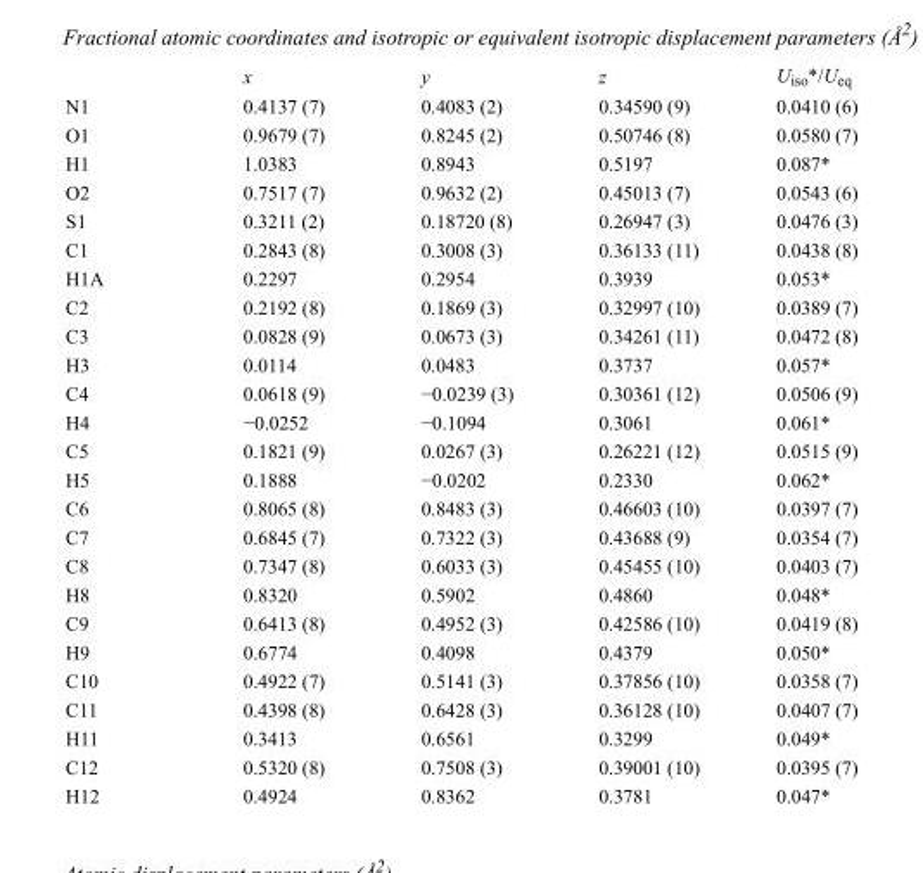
<table><thead><tr><td></td><td>x</td><td>y</td><td>z</td><td>U<sub>iso</sub>*/U<sub>eq</sub></td></tr></thead><tbody><tr><td>N1</td><td>0.4137 (7)</td><td>0.4083 (2)</td><td>0.34590 (9)</td><td>0.0410 (6)</td></tr><tr><td>O1</td><td>0.9679 (7)</td><td>0.8245 (2)</td><td>0.50746 (8)</td><td>0.0580 (7)</td></tr><tr><td>H1</td><td>1.0383</td><td>0.8943</td><td>0.5197</td><td>0.087*</td></tr><tr><td>O2</td><td>0.7517 (7)</td><td>0.9632 (2)</td><td>0.45013 (7)</td><td>0.0543 (6)</td></tr><tr><td>S1</td><td>0.3211 (2)</td><td>0.18720 (8)</td><td>0.26947 (3)</td><td>0.0476 (3)</td></tr><tr><td>C1</td><td>0.2843 (8)</td><td>0.3008 (3)</td><td>0.36133 (11)</td><td>0.0438 (8)</td></tr><tr><td>H1A</td><td>0.2297</td><td>0.2954</td><td>0.3939</td><td>0.053*</td></tr><tr><td>C2</td><td>0.2192 (8)</td><td>0.1869 (3)</td><td>0.32997 (10)</td><td>0.0389 (7)</td></tr><tr><td>C3</td><td>0.0828 (9)</td><td>0.0673 (3)</td><td>0.34261 (11)</td><td>0.0472 (8)</td></tr><tr><td>H3</td><td>0.0114</td><td>0.0483</td><td>0.3737</td><td>0.057*</td></tr><tr><td>C4</td><td>0.0618 (9)</td><td>−0.0239 (3)</td><td>0.30361 (12)</td><td>0.0506 (9)</td></tr><tr><td>H4</td><td>−0.0252</td><td>−0.1094</td><td>0.3061</td><td>0.061*</td></tr><tr><td>C5</td><td>0.1821 (9)</td><td>0.0267 (3)</td><td>0.26221 (12)</td><td>0.0515 (9)</td></tr><tr><td>H5</td><td>0.1888</td><td>−0.0202</td><td>0.2330</td><td>0.062*</td></tr><tr><td>C6</td><td>0.8065 (8)</td><td>0.8483 (3)</td><td>0.46603 (10)</td><td>0.0397 (7)</td></tr><tr><td>C7</td><td>0.6845 (7)</td><td>0.7322 (3)</td><td>0.43688 (9)</td><td>0.0354 (7)</td></tr><tr><td>C8</td><td>0.7347 (8)</td><td>0.6033 (3)</td><td>0.45455 (10)</td><td>0.0403 (7)</td></tr><tr><td>H8</td><td>0.8320</td><td>0.5902</td><td>0.4860</td><td>0.048*</td></tr><tr><td>C9</td><td>0.6413 (8)</td><td>0.4952 (3)</td><td>0.42586 (10)</td><td>0.0419 (8)</td></tr><tr><td>H9</td><td>0.6774</td><td>0.4098</td><td>0.4379</td><td>0.050*</td></tr><tr><td>C10</td><td>0.4922 (7)</td><td>0.5141 (3)</td><td>0.37856 (10)</td><td>0.0358 (7)</td></tr><tr><td>C11</td><td>0.4398 (8)</td><td>0.6428 (3)</td><td>0.36128 (10)</td><td>0.0407 (7)</td></tr><tr><td>H11</td><td>0.3413</td><td>0.6561</td><td>0.3299</td><td>0.049*</td></tr><tr><td>C12</td><td>0.5320 (8)</td><td>0.7508 (3)</td><td>0.39001 (10)</td><td>0.0395 (7)</td></tr><tr><td>H12</td><td>0.4924</td><td>0.8362</td><td>0.3781</td><td>0.047*</td></tr></tbody></table>